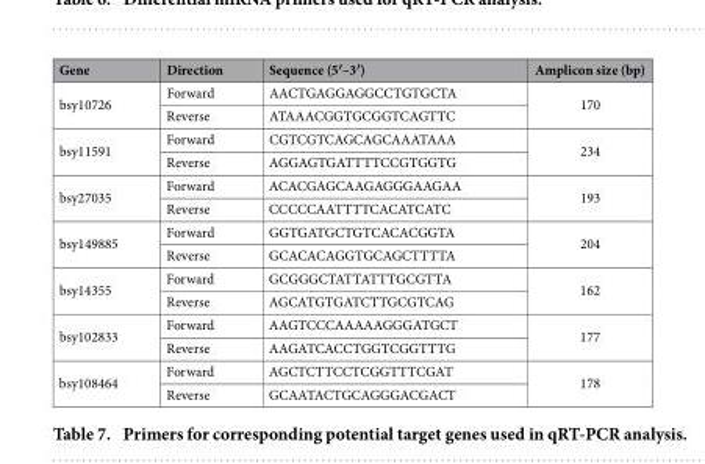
<table><thead><tr><td>Gene</td><td>Direction</td><td>Sequence (5′–3′)</td><td>Amplicon size (bp)</td></tr></thead><tbody><tr><td rowspan="2">bsy10726</td><td>Forward</td><td>AACTGAGGAGGCCTGTGCTA</td><td rowspan="2">170</td></tr><tr><td>Reverse</td><td>ATAAACGGTGCGGTCAGTTC</td></tr><tr><td rowspan="2">bsy11591</td><td>Forward</td><td>CGTCGTCAGCAGCAAATAAA</td><td rowspan="2">234</td></tr><tr><td>Reverse</td><td>AGGAGTGATTTTCCGTGGTG</td></tr><tr><td rowspan="2">bsy27035</td><td>Forward</td><td>ACACGAGCAAGAGGGAAGAA</td><td rowspan="2">193</td></tr><tr><td>Reverse</td><td>CCCCCAATTTTCACATCATC</td></tr><tr><td rowspan="2">bsy149885</td><td>Forward</td><td>GGTGATGCTGTCACACGGTA</td><td rowspan="2">204</td></tr><tr><td>Reverse</td><td>GCACACAGGTGCAGCTTTTA</td></tr><tr><td rowspan="2">bsy14355</td><td>Forward</td><td>GCGGGCTATTATTTGCGTTA</td><td rowspan="2">162</td></tr><tr><td>Reverse</td><td>AGCATGTGATCTTGCGTCAG</td></tr><tr><td rowspan="2">bsy102833</td><td>Forward</td><td>AAGTCCCAAAAAGGGATGCT</td><td rowspan="2">177</td></tr><tr><td>Reverse</td><td>AAGATCACCTGGTCGGTTTG</td></tr><tr><td rowspan="2">bsy108464</td><td>Forward</td><td>AGCTCTTCCTCGGTTTCGAT</td><td rowspan="2">178</td></tr><tr><td>Reverse</td><td>GCAATACTGCAGGGACGACT</td></tr></tbody></table>